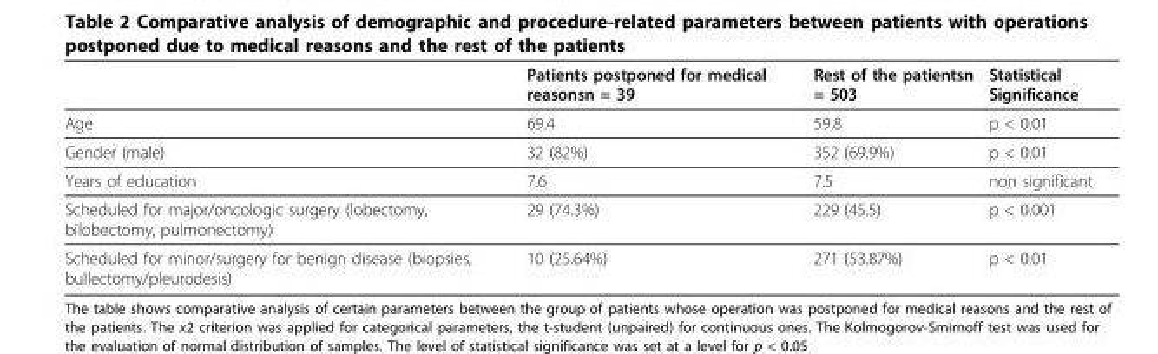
<table><thead><tr><td></td><td>Patients postponed for medical reasonsn = 39</td><td>Rest of the patientsn = 503</td><td>Statistical Significance</td></tr></thead><tbody><tr><td>Age</td><td>69.4</td><td>59.8</td><td>p &lt; 0.01</td></tr><tr><td>Gender (male)</td><td>32 (82%)</td><td>352 (69.9%)</td><td>p &lt; 0.01</td></tr><tr><td>Years of education</td><td>7.6</td><td>7.5</td><td>non significant</td></tr><tr><td>Scheduled for major/oncologic surgery (lobectomy, bilobectomy, pulmonectomy)</td><td>29 (74.3%)</td><td>229 (45.5)</td><td>p &lt; 0.001</td></tr><tr><td>Scheduled for minor/surgery for benign disease (biopsies, bullectomy/pleurodesis)</td><td>10 (25.64%)</td><td>271 (53.87%)</td><td>p &lt; 0.01</td></tr></tbody></table>